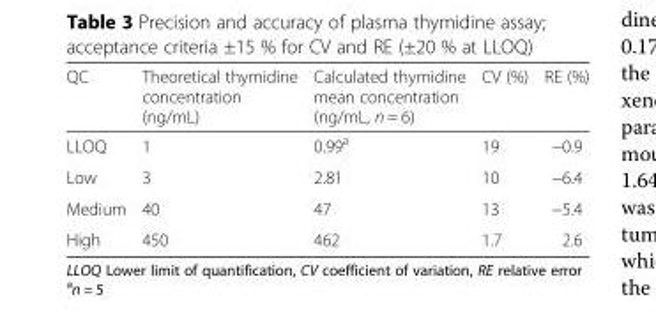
<table><thead><tr><td>QC</td><td>Theoretical thymidine concentration (ng/mL)</td><td>Calculated thymidine mean concentration (ng/mL, n = 6)</td><td>CV (%)</td><td>RE (%)</td></tr></thead><tbody><tr><td>LLOQ</td><td>1</td><td>0.99<sup>a</sup></td><td>19</td><td>−0.9</td></tr><tr><td>Low</td><td>3</td><td>2.81</td><td>10</td><td>−6.4</td></tr><tr><td>Medium</td><td>40</td><td>47</td><td>13</td><td>−5.4</td></tr><tr><td>High</td><td>450</td><td>462</td><td>1.7</td><td>2.6</td></tr></tbody></table>